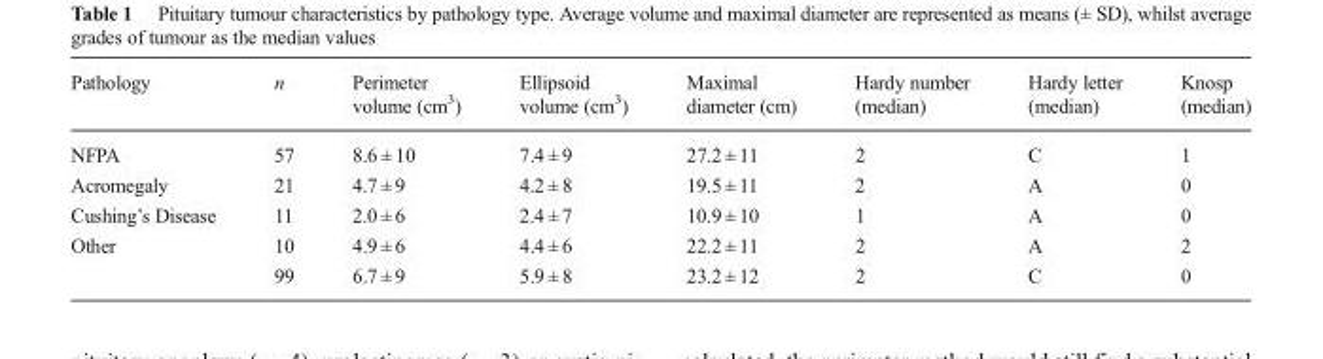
<table><thead><tr><td>Pathology</td><td>n</td><td>Perimeter volume (cm<sup>3</sup>)</td><td>Ellipsoid volume (cm<sup>3</sup>)</td><td>Maximal diameter (cm)</td><td>Hardy number (median)</td><td>Hardy letter (median)</td><td>Knosp (median)</td></tr></thead><tbody><tr><td>NFPA</td><td>57</td><td>8.6 ± 10</td><td>7.4 ± 9</td><td>27.2 ± 11</td><td>2</td><td>C</td><td>1</td></tr><tr><td>Acromegaly</td><td>21</td><td>4.7 ± 9</td><td>4.2 ± 8</td><td>19.5 ± 11</td><td>2</td><td>A</td><td>0</td></tr><tr><td>Cushing’s Disease</td><td>11</td><td>2.0 ± 6</td><td>2.4 ± 7</td><td>10.9 ± 10</td><td>1</td><td>A</td><td>0</td></tr><tr><td rowspan="2">Other</td><td>10</td><td>4.9 ± 6</td><td>4.4 ± 6</td><td>22.2 ± 11</td><td>2</td><td>A</td><td>2</td></tr><tr><td>99</td><td>6.7 ± 9</td><td>5.9 ± 8</td><td>23.2 ± 12</td><td>2</td><td>C</td><td>0</td></tr></tbody></table>